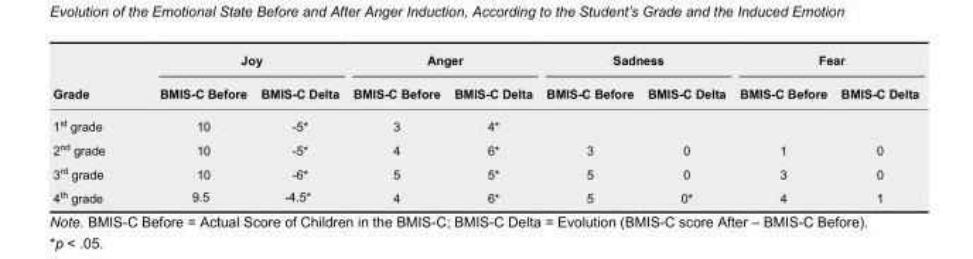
<table><thead><tr><td rowspan="2">Grade</td><td colspan="2">Joy</td><td colspan="2">Anger</td><td colspan="2">Sadness</td><td colspan="2">Fear</td></tr><tr><td>BMIS-C Before</td><td>BMIS-C Delta</td><td>BMIS-C Before</td><td>BMIS-C Delta</td><td>BMIS-C Before</td><td>BMIS-C Delta</td><td>BMIS-C Before</td><td>BMIS-C Delta</td></tr></thead><tbody><tr><td>1<sup>st</sup> grade</td><td>10</td><td>-5*</td><td>3</td><td>4*</td><td></td><td></td><td></td><td></td></tr><tr><td>2<sup>nd</sup> grade</td><td>10</td><td>-5*</td><td>4</td><td>6*</td><td>3</td><td>0</td><td>1</td><td>0</td></tr><tr><td>3<sup>rd</sup> grade</td><td>10</td><td>-6*</td><td>5</td><td>5*</td><td>5</td><td>0</td><td>3</td><td>0</td></tr><tr><td>4<sup>th</sup> grade</td><td>9.5</td><td>-4.5*</td><td>4</td><td>6*</td><td>5</td><td>0*</td><td>4</td><td>1</td></tr></tbody></table>